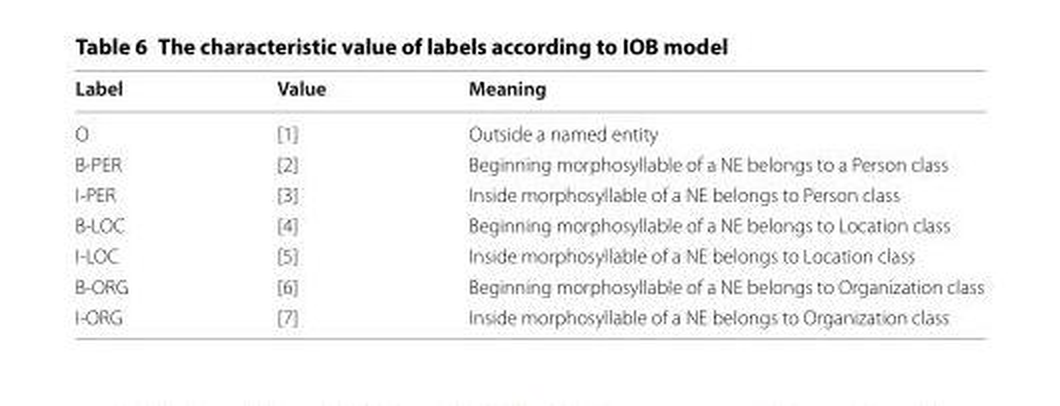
<table><thead><tr><td>Label</td><td>Value</td><td>Meaning</td></tr></thead><tbody><tr><td>O</td><td>[1]</td><td>Outside a named entity</td></tr><tr><td>B-PER</td><td>[2]</td><td>Beginning morphosyllable of a NE belongs to a Person class</td></tr><tr><td>I-PER</td><td>[3]</td><td>Inside morphosyllable of a NE belongs to Person class</td></tr><tr><td>B-LOC</td><td>[4]</td><td>Beginning morphosyllable of a NE belongs to Location class</td></tr><tr><td>I-LOC</td><td>[5]</td><td>Inside morphosyllable of a NE belongs to Location class</td></tr><tr><td>B-ORG</td><td>[6]</td><td>Beginning morphosyllable of a NE belongs to Organization class</td></tr><tr><td>I-ORG</td><td>[7]</td><td>Inside morphosyllable of a NE belongs to Organization class</td></tr></tbody></table>